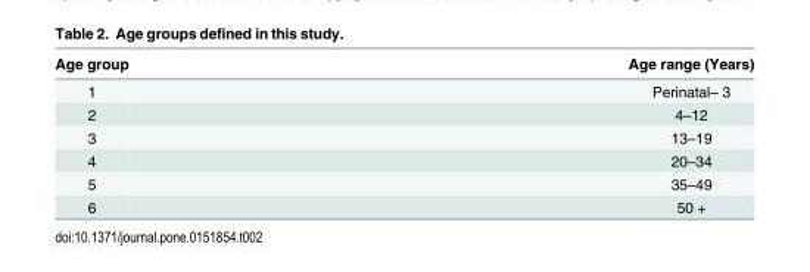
<table><thead><tr><td>Age group</td><td>Age range (Years)</td></tr></thead><tbody><tr><td>1</td><td>Perinatal– 3</td></tr><tr><td>2</td><td>4–12</td></tr><tr><td>3</td><td>13–19</td></tr><tr><td>4</td><td>20–34</td></tr><tr><td>5</td><td>35–49</td></tr><tr><td>6</td><td>50 +</td></tr></tbody></table>